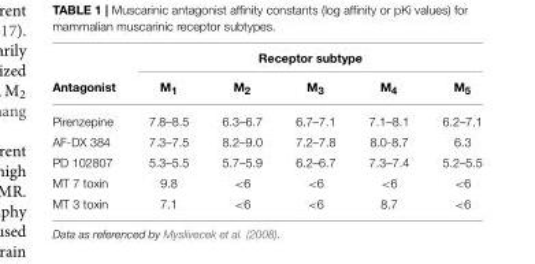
<table><thead><tr><td rowspan="2">Antagonist</td><td colspan="5">Receptor subtype</td></tr><tr><td>M<sub>1</sub></td><td>M<sub>2</sub></td><td>M<sub>3</sub></td><td>M<sub>4</sub></td><td>M<sub>5</sub></td></tr></thead><tbody><tr><td>Pirenzepine</td><td>7.8–8.5</td><td>6.3–6.7</td><td>6.7–7.1</td><td>7.1–8.1</td><td>6.2–7.1</td></tr><tr><td>AF-DX 384</td><td>7.3–7.5</td><td>8.2–9.0</td><td>7.2–7.8</td><td>8.0-8.7</td><td>6.3</td></tr><tr><td>PD 102807</td><td>5.3–5.5</td><td>5.7–5.9</td><td>6.2–6.7</td><td>7.3–7.4</td><td>5.2–5.5</td></tr><tr><td>MT 7 toxin</td><td>9.8</td><td>&lt;6</td><td>&lt;6</td><td>&lt;6</td><td>&lt;6</td></tr><tr><td>MT 3 toxin</td><td>7.1</td><td>&lt;6</td><td>&lt;6</td><td>8.7</td><td>&lt;6</td></tr></tbody></table>